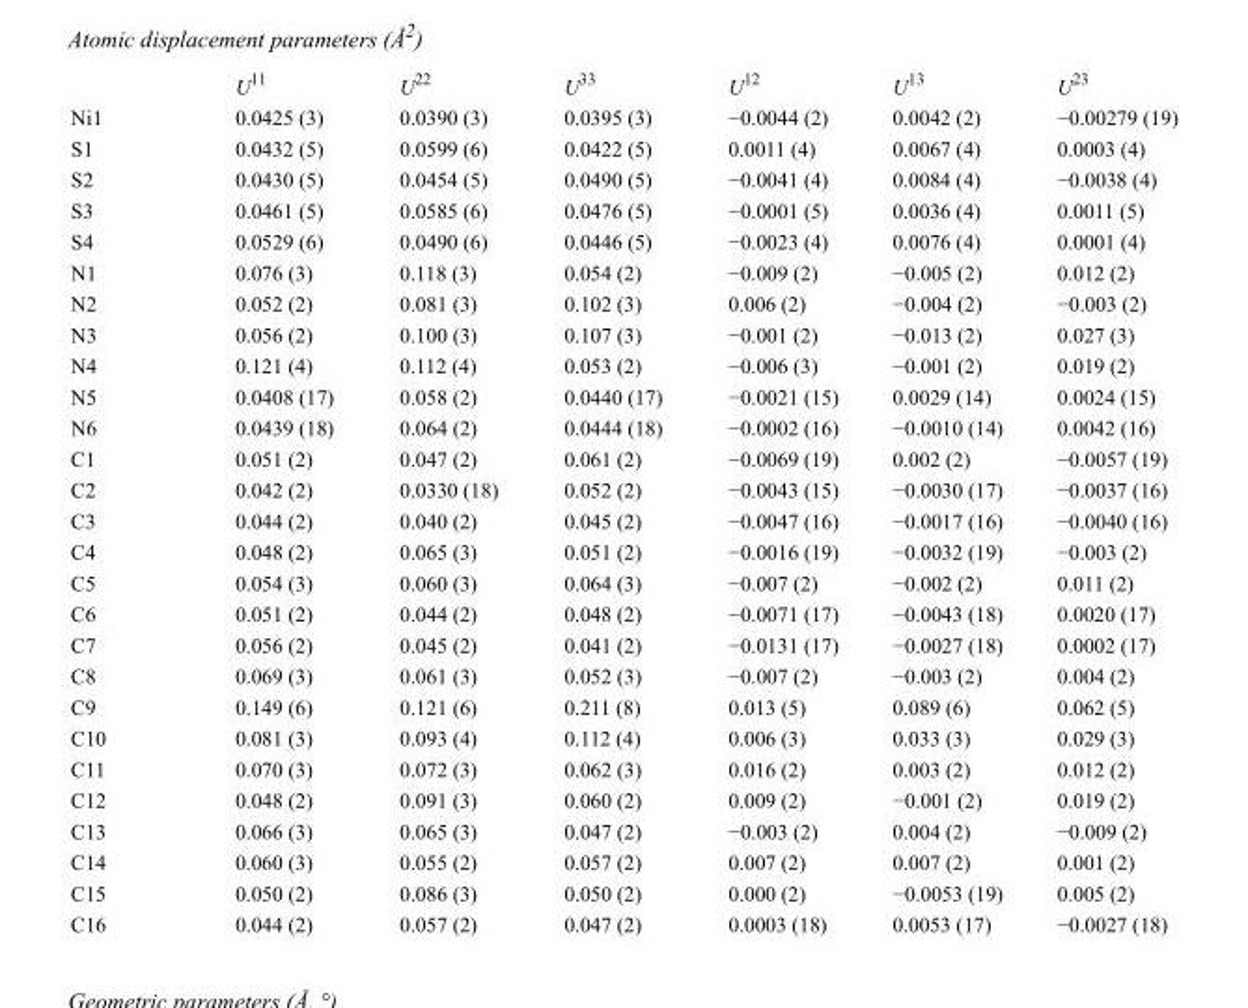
<table><thead><tr><td></td><td>U<sup>11</sup></td><td>U<sup>22</sup></td><td>U<sup>33</sup></td><td>U<sup>12</sup></td><td>U<sup>13</sup></td><td>U<sup>23</sup></td></tr></thead><tbody><tr><td>Ni1</td><td>0.0425 (3)</td><td>0.0390 (3)</td><td>0.0395 (3)</td><td>−0.0044 (2)</td><td>0.0042 (2)</td><td>−0.00279 (19)</td></tr><tr><td>S1</td><td>0.0432 (5)</td><td>0.0599 (6)</td><td>0.0422 (5)</td><td>0.0011 (4)</td><td>0.0067 (4)</td><td>0.0003 (4)</td></tr><tr><td>S2</td><td>0.0430 (5)</td><td>0.0454 (5)</td><td>0.0490 (5)</td><td>−0.0041 (4)</td><td>0.0084 (4)</td><td>−0.0038 (4)</td></tr><tr><td>S3</td><td>0.0461 (5)</td><td>0.0585 (6)</td><td>0.0476 (5)</td><td>−0.0001 (5)</td><td>0.0036 (4)</td><td>0.0011 (5)</td></tr><tr><td>S4</td><td>0.0529 (6)</td><td>0.0490 (6)</td><td>0.0446 (5)</td><td>−0.0023 (4)</td><td>0.0076 (4)</td><td>0.0001 (4)</td></tr><tr><td>N1</td><td>0.076 (3)</td><td>0.118 (3)</td><td>0.054 (2)</td><td>−0.009 (2)</td><td>−0.005 (2)</td><td>0.012 (2)</td></tr><tr><td>N2</td><td>0.052 (2)</td><td>0.081 (3)</td><td>0.102 (3)</td><td>0.006 (2)</td><td>−0.004 (2)</td><td>−0.003 (2)</td></tr><tr><td>N3</td><td>0.056 (2)</td><td>0.100 (3)</td><td>0.107 (3)</td><td>−0.001 (2)</td><td>−0.013 (2)</td><td>0.027 (3)</td></tr><tr><td>N4</td><td>0.121 (4)</td><td>0.112 (4)</td><td>0.053 (2)</td><td>−0.006 (3)</td><td>−0.001 (2)</td><td>0.019 (2)</td></tr><tr><td>N5</td><td>0.0408 (17)</td><td>0.058 (2)</td><td>0.0440 (17)</td><td>−0.0021 (15)</td><td>0.0029 (14)</td><td>0.0024 (15)</td></tr><tr><td>N6</td><td>0.0439 (18)</td><td>0.064 (2)</td><td>0.0444 (18)</td><td>−0.0002 (16)</td><td>−0.0010 (14)</td><td>0.0042 (16)</td></tr><tr><td>C1</td><td>0.051 (2)</td><td>0.047 (2)</td><td>0.061 (2)</td><td>−0.0069 (19)</td><td>0.002 (2)</td><td>−0.0057 (19)</td></tr><tr><td>C2</td><td>0.042 (2)</td><td>0.0330 (18)</td><td>0.052 (2)</td><td>−0.0043 (15)</td><td>−0.0030 (17)</td><td>−0.0037 (16)</td></tr><tr><td>C3</td><td>0.044 (2)</td><td>0.040 (2)</td><td>0.045 (2)</td><td>−0.0047 (16)</td><td>−0.0017 (16)</td><td>−0.0040 (16)</td></tr><tr><td>C4</td><td>0.048 (2)</td><td>0.065 (3)</td><td>0.051 (2)</td><td>−0.0016 (19)</td><td>−0.0032 (19)</td><td>−0.003 (2)</td></tr><tr><td>C5</td><td>0.054 (3)</td><td>0.060 (3)</td><td>0.064 (3)</td><td>−0.007 (2)</td><td>−0.002 (2)</td><td>0.011 (2)</td></tr><tr><td>C6</td><td>0.051 (2)</td><td>0.044 (2)</td><td>0.048 (2)</td><td>−0.0071 (17)</td><td>−0.0043 (18)</td><td>0.0020 (17)</td></tr><tr><td>C7</td><td>0.056 (2)</td><td>0.045 (2)</td><td>0.041 (2)</td><td>−0.0131 (17)</td><td>−0.0027 (18)</td><td>0.0002 (17)</td></tr><tr><td>C8</td><td>0.069 (3)</td><td>0.061 (3)</td><td>0.052 (3)</td><td>−0.007 (2)</td><td>−0.003 (2)</td><td>0.004 (2)</td></tr><tr><td>C9</td><td>0.149 (6)</td><td>0.121 (6)</td><td>0.211 (8)</td><td>0.013 (5)</td><td>0.089 (6)</td><td>0.062 (5)</td></tr><tr><td>C10</td><td>0.081 (3)</td><td>0.093 (4)</td><td>0.112 (4)</td><td>0.006 (3)</td><td>0.033 (3)</td><td>0.029 (3)</td></tr><tr><td>C11</td><td>0.070 (3)</td><td>0.072 (3)</td><td>0.062 (3)</td><td>0.016 (2)</td><td>0.003 (2)</td><td>0.012 (2)</td></tr><tr><td>C12</td><td>0.048 (2)</td><td>0.091 (3)</td><td>0.060 (2)</td><td>0.009 (2)</td><td>−0.001 (2)</td><td>0.019 (2)</td></tr><tr><td>C13</td><td>0.066 (3)</td><td>0.065 (3)</td><td>0.047 (2)</td><td>−0.003 (2)</td><td>0.004 (2)</td><td>−0.009 (2)</td></tr><tr><td>C14</td><td>0.060 (3)</td><td>0.055 (2)</td><td>0.057 (2)</td><td>0.007 (2)</td><td>0.007 (2)</td><td>0.001 (2)</td></tr><tr><td>C15</td><td>0.050 (2)</td><td>0.086 (3)</td><td>0.050 (2)</td><td>0.000 (2)</td><td>−0.0053 (19)</td><td>0.005 (2)</td></tr><tr><td>C16</td><td>0.044 (2)</td><td>0.057 (2)</td><td>0.047 (2)</td><td>0.0003 (18)</td><td>0.0053 (17)</td><td>−0.0027 (18)</td></tr></tbody></table>